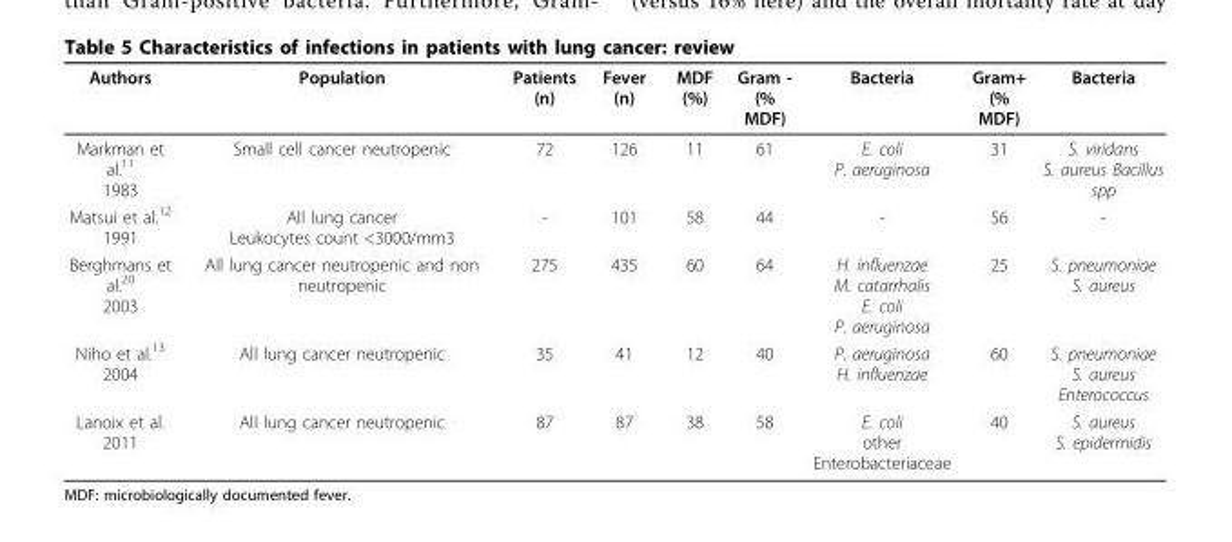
<table><thead><tr><td>Authors</td><td>Population</td><td>Patients (n)</td><td>Fever (n)</td><td>MDF (%)</td><td>Gram - (% MDF)</td><td>Bacteria</td><td>Gram+ (% MDF)</td><td>Bacteria</td></tr></thead><tbody><tr><td>Markman et al.<sup>11</sup> 1983</td><td>Small cell cancer neutropenic</td><td>72</td><td>126</td><td>11</td><td>61</td><td>E. coli P. aeruginosa</td><td>31</td><td>S. viridans S. aureus Bacillus spp</td></tr><tr><td>Matsui et al.<sup>12</sup> 1991</td><td>All lung cancer Leukocytes count &lt;3000/mm3</td><td>-</td><td>101</td><td>58</td><td>44</td><td>-</td><td>56</td><td>-</td></tr><tr><td>Berghmans et al.<sup>20</sup> 2003</td><td>All lung cancer neutropenic and non neutropenic</td><td>275</td><td>435</td><td>60</td><td>64</td><td>H. influenzae M. catarrhalis E. coli P. aeruginosa</td><td>25</td><td>S. pneumoniae S. aureus</td></tr><tr><td>Niho et al.<sup>13</sup> 2004</td><td>All lung cancer neutropenic</td><td>35</td><td>41</td><td>12</td><td>40</td><td>P. aeruginosa H. influenzae</td><td>60</td><td>S. pneumoniae S. aureus Enterococcus</td></tr><tr><td>Lanoix et al. 2011</td><td>All lung cancer neutropenic</td><td>87</td><td>87</td><td>38</td><td>58</td><td>E. coli other Enterobacteriaceae</td><td>40</td><td>S. aureus S. epidermidis</td></tr></tbody></table>